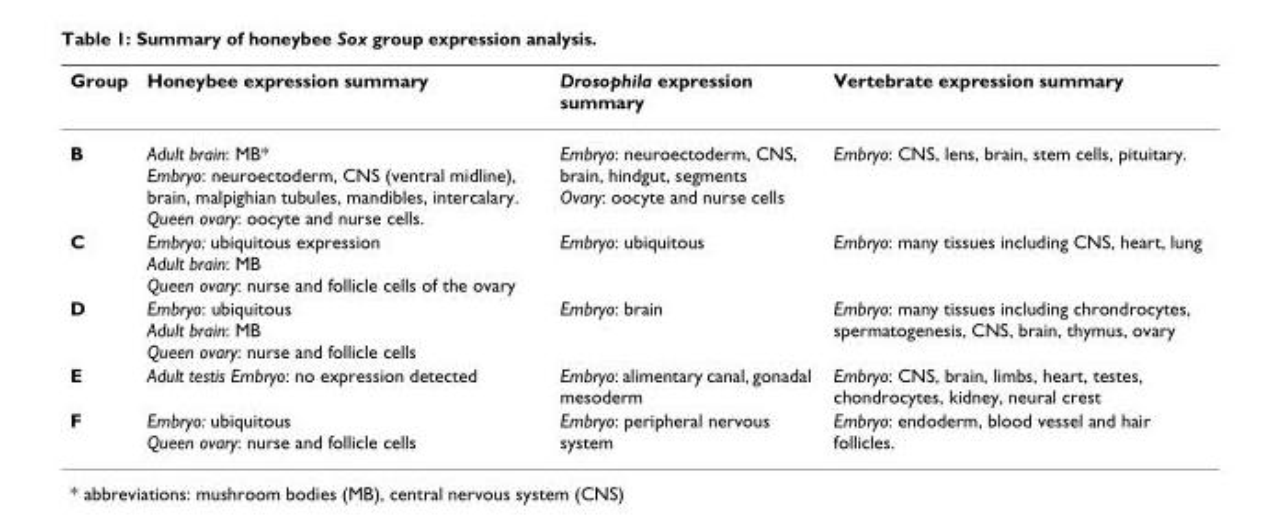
<table><thead><tr><td>Group</td><td>Honeybee expression summary</td><td>Drosophila expression summary</td><td>Vertebrate expression summary</td></tr></thead><tbody><tr><td>B</td><td>Adult brain: MB* Embryo: neuroectoderm, CNS (ventral midline), brain, malpighian tubules, mandibles, intercalary. Queen ovary: oocyte and nurse cells.</td><td>Embryo: neuroectoderm, CNS, brain, hindgut, segments Ovary: oocyte and nurse cells</td><td>Embryo: CNS, lens, brain, stem cells, pituitary.</td></tr><tr><td>C</td><td>Embryo: ubiquitous expression Adult brain: MB Queen ovary: nurse and follicle cells of the ovary</td><td>Embryo: ubiquitous</td><td>Embryo: many tissues including CNS, heart, lung</td></tr><tr><td>D</td><td>Embryo: ubiquitous Adult brain: MB Queen ovary: nurse and follicle cells</td><td>Embryo: brain</td><td>Embryo: many tissues including chrondrocytes, spermatogenesis, CNS, brain, thymus, ovary</td></tr><tr><td>E</td><td>Adult testis Embryo: no expression detected</td><td>Embryo: alimentary canal, gonadal mesoderm</td><td>Embryo: CNS, brain, limbs, heart, testes, chondrocytes, kidney, neural crest</td></tr><tr><td>F</td><td>Embryo: ubiquitous Queen ovary: nurse and follicle cells</td><td>Embryo: peripheral nervous system</td><td>Embryo: endoderm, blood vessel and hair follicles.</td></tr></tbody></table>